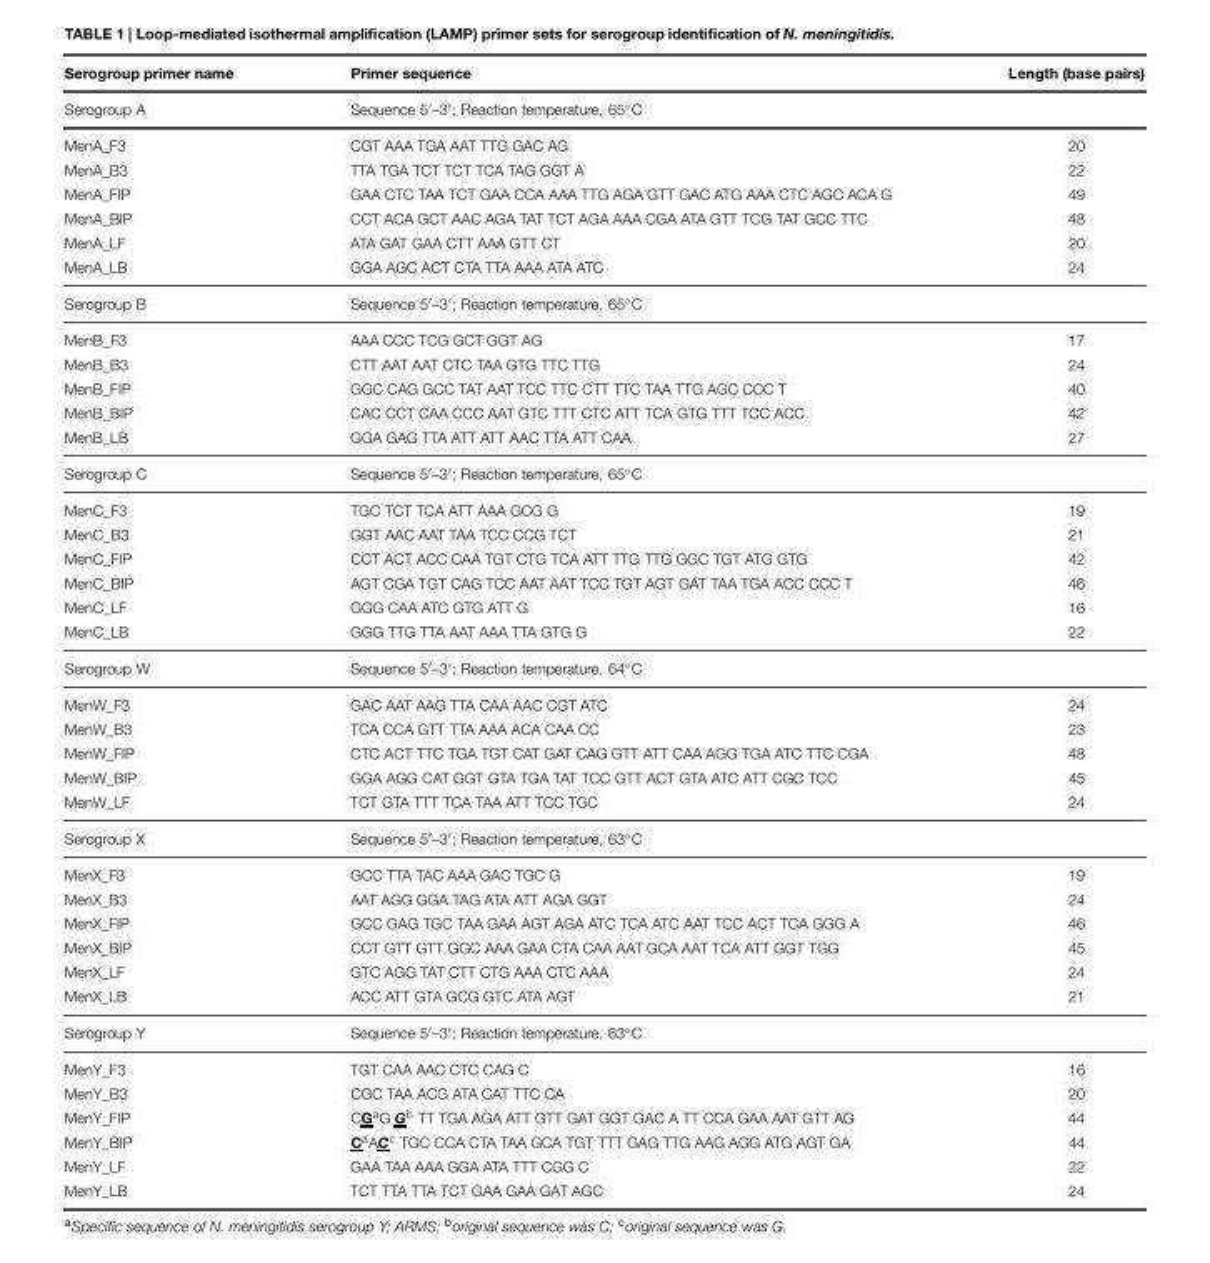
<table><thead><tr><td>Serogroup primer name</td><td>Primer sequence</td><td>Length (base pairs)</td></tr></thead><tbody><tr><td>Serogroup A</td><td>Sequence 5′–3′; Reaction temperature, 65◦C</td><td></td></tr><tr><td>MenA_F3</td><td>CGT AAA TGA AAT TTG GAC AG</td><td>20</td></tr><tr><td>MenA_B3</td><td>TTA TGA TCT TCT TCA TAG GGT A</td><td>22</td></tr><tr><td>MenA_FIP</td><td>GAA CTC TAA TCT GAA CCA AAA TTG AGA GTT GAC ATG AAA CTC AGC ACA G</td><td>49</td></tr><tr><td>MenA_BIP</td><td>CCT ACA GCT AAC AGA TAT TCT AGA AAA CGA ATA GTT TCG TAT GCC TTC</td><td>48</td></tr><tr><td>MenA_LF</td><td>ATA GAT GAA CTT AAA GTT CT</td><td>20</td></tr><tr><td>MenA_LB</td><td>GGA AGC ACT CTA TTA AAA ATA ATC</td><td>24</td></tr><tr><td>Serogroup B</td><td>Sequence 5′–3′; Reaction temperature, 65◦C</td><td></td></tr><tr><td>MenB_F3</td><td>AAA CCC TCG GCT GGT AG</td><td>17</td></tr><tr><td>MenB_B3</td><td>CTT AAT AAT CTC TAA GTG TTC TTG</td><td>24</td></tr><tr><td>MenB_FIP</td><td>GGC CAG GCC TAT AAT TCC TTC CTT TTC TAA TTG AGC CCC T</td><td>40</td></tr><tr><td>MenB_BIP</td><td>CAC CCT CAA CCC AAT GTC TTT CTC ATT TCA GTG TTT TCC ACC</td><td>42</td></tr><tr><td>MenB_LB</td><td>GGA GAG TTA ATT ATT AAC TTA ATT CAA</td><td>27</td></tr><tr><td>Serogroup C</td><td>Sequence 5′–3′; Reaction temperature, 65◦C</td><td></td></tr><tr><td>MenC_F3</td><td>TGC TCT TCA ATT AAA GCG G</td><td>19</td></tr><tr><td>MenC_B3</td><td>GGT AAC AAT TAA TCC CCG TCT</td><td>21</td></tr><tr><td>MenC_FIP</td><td>CCT ACT ACC CAA TGT CTG TCA ATT TTG TTG GGC TGT ATG GTG</td><td>42</td></tr><tr><td>MenC_BIP</td><td>AGT CGA TGT CAG TCC AAT AAT TCC TGT AGT GAT TAA TGA ACC CCC T</td><td>46</td></tr><tr><td>MenC_LF</td><td>GGG CAA ATC GTG ATT G</td><td>16</td></tr><tr><td>MenC_LB</td><td>GGG TTG TTA AAT AAA TTA GTG G</td><td>22</td></tr><tr><td>Serogroup W</td><td>Sequence 5′–3′; Reaction temperature, 64◦C</td><td></td></tr><tr><td>MenW_F3</td><td>GAC AAT AAG TTA CAA AAC CGT ATC</td><td>24</td></tr><tr><td>MenW_B3</td><td>TCA CCA GTT TTA AAA ACA CAA CC</td><td>23</td></tr><tr><td>MenW_FIP</td><td>CTC ACT TTC TGA TGT CAT GAT CAG GTT ATT CAA AGG TGA ATC TTC CGA</td><td>48</td></tr><tr><td>MenW_BIP</td><td>GGA AGG CAT GGT GTA TGA TAT TCC GTT ACT GTA ATC ATT CGC TCC</td><td>45</td></tr><tr><td>MenW_LF</td><td>TCT GTA TTT TCA TAA ATT TCC TGC</td><td>24</td></tr><tr><td>Serogroup X</td><td>Sequence 5′–3′; Reaction temperature, 63◦C</td><td></td></tr><tr><td>MenX_F3</td><td>GCC TTA TAC AAA GAC TGC G</td><td>19</td></tr><tr><td>MenX_B3</td><td>AAT AGG GGA TAG ATA ATT AGA GGT</td><td>24</td></tr><tr><td>MenX_FIP</td><td>GCC GAG TGC TAA GAA AGT AGA ATC TCA ATC AAT TCC ACT TCA GGG A</td><td>46</td></tr><tr><td>MenX_BIP</td><td>CCT GTT GTT GGC AAA GAA CTA CAA AAT GCA AAT TCA ATT GGT TGG</td><td>45</td></tr><tr><td>MenX_LF</td><td>GTC AGG TAT CTT CTG AAA CTC AAA</td><td>24</td></tr><tr><td>MenX_LB</td><td>ACC ATT GTA GCG GTC ATA AGT</td><td>21</td></tr><tr><td>Serogroup Y</td><td>Sequence 5′–3′; Reaction temperature, 63◦C</td><td></td></tr><tr><td>MenY_F3</td><td>TGT CAA AAC CTC CAG C</td><td>16</td></tr><tr><td>MenY_B3</td><td>CGC TAA ACG ATA CAT TTC CA</td><td>20</td></tr><tr><td>MenY_FIP</td><td>CGaG Gb TT TGA AGA ATT GTT GAT GGT GAC A TT CCA GAA AAT GTT AG</td><td>44</td></tr><tr><td>MenY_BIP</td><td>CaACc TGC CCA CTA TAA GCA TGT TTT GAG TTG AAG AGG ATG AGT GA</td><td>44</td></tr><tr><td>MenY_LF</td><td>GAA TAA AAA GGA ATA TTT CGG C</td><td>22</td></tr><tr><td>MenY_LB</td><td>TCT TTA TTA TCT GAA GAA GAT AGC</td><td>24</td></tr></tbody></table>